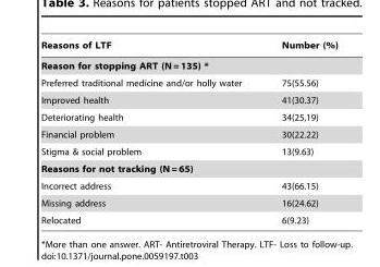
<table><thead><tr><td>Reasons of LTF</td><td>Number (%)</td></tr></thead><tbody><tr><td colspan="2">Reason for stopping ART (N = 135) *</td></tr><tr><td>Preferred traditional medicine and/or holly water</td><td>75(55.56)</td></tr><tr><td>Improved health</td><td>41(30.37)</td></tr><tr><td>Deteriorating health</td><td>34(25,19)</td></tr><tr><td>Financial problem</td><td>30(22.22)</td></tr><tr><td>Stigma &amp; social problem</td><td>13(9.63)</td></tr><tr><td colspan="2">Reasons for not tracking (N = 65)</td></tr><tr><td>Incorrect address</td><td>43(66.15)</td></tr><tr><td>Missing address</td><td>16(24.62)</td></tr><tr><td>Relocated</td><td>6(9.23)</td></tr></tbody></table>